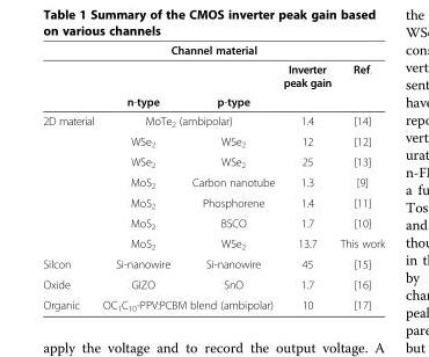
<table><thead><tr><td colspan="5">Channel material</td></tr><tr><td rowspan="2"></td><td rowspan="2">n-type</td><td rowspan="2">p-type</td><td rowspan="2">Inverter peak gain</td><td rowspan="2">Ref.</td></tr><tr></tr></thead><tbody><tr><td rowspan="7">2D material</td><td colspan="2">MoTe<sub>2</sub> (ambipolar)</td><td>1.4</td><td>[14]</td></tr><tr><td>WSe<sub>2</sub></td><td>WSe<sub>2</sub></td><td>12</td><td>[12]</td></tr><tr><td>WSe<sub>2</sub></td><td>WSe<sub>2</sub></td><td>25</td><td>[13]</td></tr><tr><td>MoS<sub>2</sub></td><td>Carbon nanotube</td><td>1.3</td><td>[9]</td></tr><tr><td>MoS<sub>2</sub></td><td>Phosphorene</td><td>1.4</td><td>[11]</td></tr><tr><td>MoS<sub>2</sub></td><td>BSCO</td><td>1.7</td><td>[10]</td></tr><tr><td>MoS<sub>2</sub></td><td>WSe<sub>2</sub></td><td>13.7</td><td>This work</td></tr><tr><td>Silcon</td><td>Si-nanowire</td><td>Si-nanowire</td><td>45</td><td>[15]</td></tr><tr><td>Oxide</td><td>GIZO</td><td>SnO</td><td>1.7</td><td>[16]</td></tr><tr><td>Organic</td><td colspan="2">OC<sub>1</sub>C<sub>10</sub>-PPV:PCBM blend (ambipolar)</td><td>10</td><td>[17]</td></tr></tbody></table>